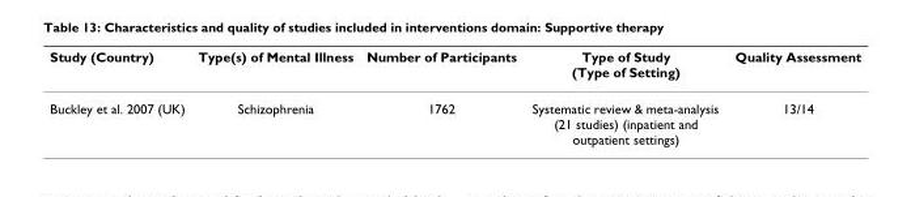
<table><thead><tr><td>Study (Country)</td><td>Type(s) of Mental Illness</td><td>Number of Participants</td><td>Type of Study (Type of Setting)</td><td>Quality Assessment</td></tr></thead><tbody><tr><td>Buckley et al. 2007 (UK)</td><td>Schizophrenia</td><td>1762</td><td>Systematic review &amp; meta-analysis (21 studies) (inpatient and outpatient settings)</td><td>13/14</td></tr></tbody></table>